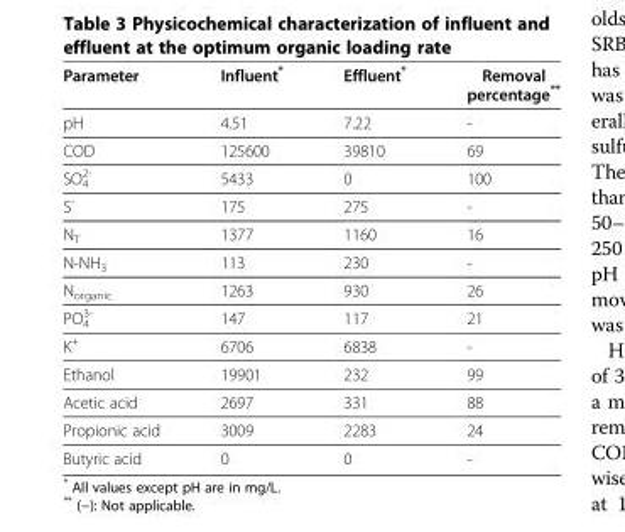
<table><thead><tr><td>Parameter</td><td>Influent*</td><td>Effluent*</td><td>Removal percentage**</td></tr></thead><tbody><tr><td>pH</td><td>4.51</td><td>7.22</td><td>-</td></tr><tr><td>COD</td><td>125600</td><td>39810</td><td>69</td></tr><tr><td>SO<sub>4</sub> <sup>2-</sup></td><td>5433</td><td>0</td><td>100</td></tr><tr><td>S<sup>-</sup></td><td>175</td><td>275</td><td>-</td></tr><tr><td>N<sub>T</sub></td><td>1377</td><td>1160</td><td>16</td></tr><tr><td>N-NH<sub>3</sub></td><td>113</td><td>230</td><td>-</td></tr><tr><td>N<sub>organic</sub></td><td>1263</td><td>930</td><td>26</td></tr><tr><td>PO<sub>4</sub> <sup>3-</sup></td><td>147</td><td>117</td><td>21</td></tr><tr><td>K<sup>+</sup></td><td>6706</td><td>6838</td><td>-</td></tr><tr><td>Ethanol</td><td>19901</td><td>232</td><td>99</td></tr><tr><td>Acetic acid</td><td>2697</td><td>331</td><td>88</td></tr><tr><td>Propionic acid</td><td>3009</td><td>2283</td><td>24</td></tr><tr><td>Butyric acid</td><td>0</td><td>0</td><td>-</td></tr></tbody></table>